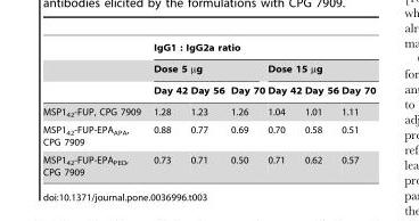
<table><thead><tr><td rowspan="3"></td><td colspan="6">IgG1 : IgG2a ratio</td></tr><tr><td colspan="3">Dose 5 µg</td><td colspan="3">Dose 15 µg</td></tr><tr><td>Day 42</td><td>Day 56</td><td>Day 70</td><td>Day 42</td><td>Day 56</td><td>Day 70</td></tr></thead><tbody><tr><td>MSP1<sub>42</sub>-FUP, CPG 7909</td><td>1.28</td><td>1.23</td><td>1.26</td><td>1.04</td><td>1.01</td><td>1.11</td></tr><tr><td>MSP1<sub>42</sub>-FUP-EPA<sub>APA</sub>, CPG 7909</td><td>0.88</td><td>0.77</td><td>0.69</td><td>0.70</td><td>0.58</td><td>0.51</td></tr><tr><td>MSP1<sub>42</sub>-FUP-EPA<sub>PEO</sub>, CPG 7909</td><td>0.73</td><td>0.71</td><td>0.50</td><td>0.71</td><td>0.62</td><td>0.57</td></tr></tbody></table>